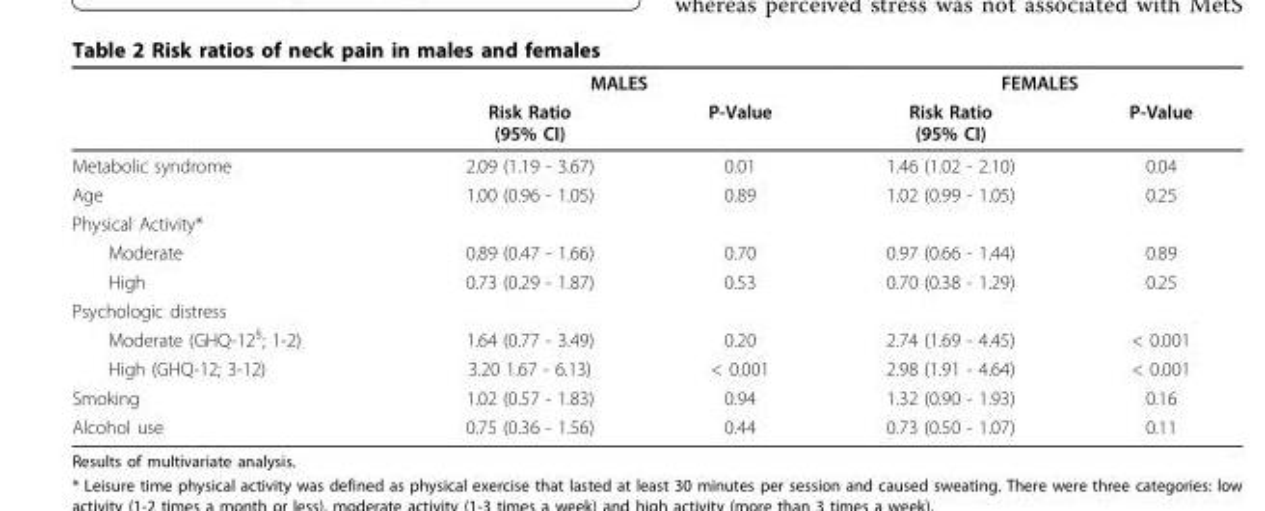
<table><thead><tr><td rowspan="2"></td><td colspan="2">MALES</td><td colspan="2">FEMALES</td></tr><tr><td>Risk Ratio (95% CI)</td><td>P-Value</td><td>Risk Ratio (95% CI)</td><td>P-Value</td></tr></thead><tbody><tr><td>Metabolic syndrome</td><td>2.09 (1.19 - 3.67)</td><td>0.01</td><td>1.46 (1.02 - 2.10)</td><td>0.04</td></tr><tr><td>Age</td><td>1.00 (0.96 - 1.05)</td><td>0.89</td><td>1.02 (0.99 - 1.05)</td><td>0.25</td></tr><tr><td colspan="5">Physical Activity*</td></tr><tr><td>Moderate</td><td>0.89 (0.47 - 1.66)</td><td>0.70</td><td>0.97 (0.66 - 1.44)</td><td>0.89</td></tr><tr><td>High</td><td>0.73 (0.29 - 1.87)</td><td>0.53</td><td>0.70 (0.38 - 1.29)</td><td>0.25</td></tr><tr><td colspan="5">Psychologic distress</td></tr><tr><td>Moderate (GHQ-12<sup>§</sup>; 1-2)</td><td>1.64 (0.77 - 3.49)</td><td>0.20</td><td>2.74 (1.69 - 4.45)</td><td>&lt; 0.001</td></tr><tr><td>High (GHQ-12; 3-12)</td><td>3.20 1.67 - 6.13)</td><td>&lt; 0.001</td><td>2.98 (1.91 - 4.64)</td><td>&lt; 0.001</td></tr><tr><td>Smoking</td><td>1.02 (0.57 - 1.83)</td><td>0.94</td><td>1.32 (0.90 - 1.93)</td><td>0.16</td></tr><tr><td>Alcohol use</td><td>0.75 (0.36 - 1.56)</td><td>0.44</td><td>0.73 (0.50 - 1.07)</td><td>0.11</td></tr></tbody></table>